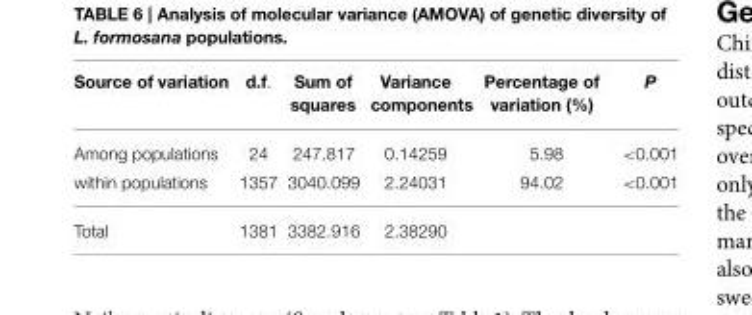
<table><thead><tr><td>Source of variation</td><td>d.f.</td><td>Sum of squares</td><td>Variance components</td><td>Percentage of variation (%)</td><td>P</td></tr></thead><tbody><tr><td>Among populations</td><td>24</td><td>247.817</td><td>0.14259</td><td>5.98</td><td>&lt;0.001</td></tr><tr><td>within populations</td><td>1357</td><td>3040.099</td><td>2.24031</td><td>94.02</td><td>&lt;0.001</td></tr><tr><td>Total</td><td>1381</td><td>3382.916</td><td>2.38290</td><td></td><td></td></tr></tbody></table>